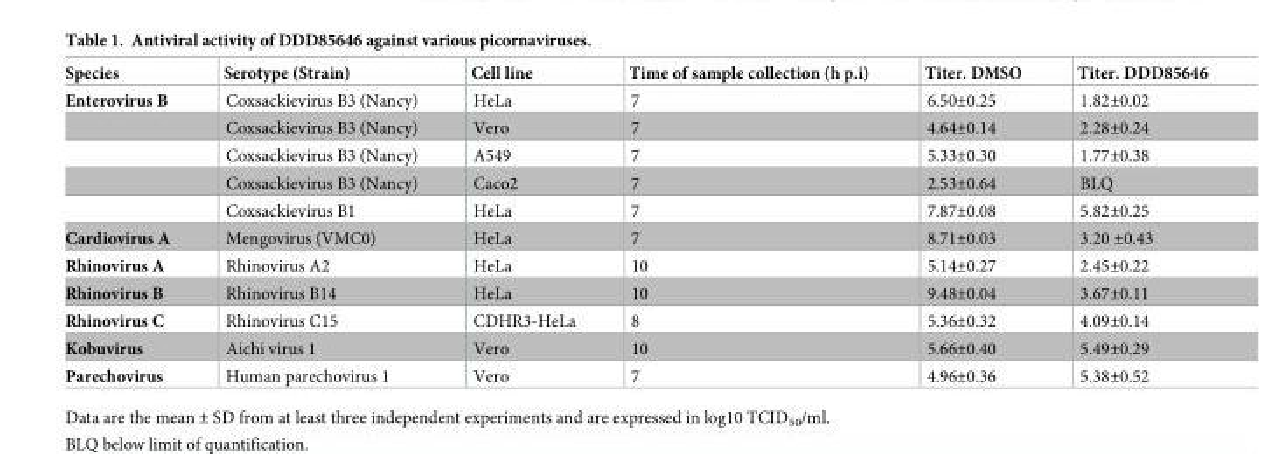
<table><thead><tr><td>Species</td><td>Serotype (Strain)</td><td>Cell line</td><td>Time of sample collection (h p.i)</td><td>Titer. DMSO</td><td>Titer. DDD85646</td></tr></thead><tbody><tr><td rowspan="5">Enterovirus B</td><td>Coxsackievirus B3 (Nancy)</td><td>HeLa</td><td>7</td><td>6.50±0.25</td><td>1.82±0.02</td></tr><tr><td>Coxsackievirus B3 (Nancy)</td><td>Vero</td><td>7</td><td>4.64±0.14</td><td>2.28±0.24</td></tr><tr><td>Coxsackievirus B3 (Nancy)</td><td>A549</td><td>7</td><td>5.33±0.30</td><td>1.77±0.38</td></tr><tr><td>Coxsackievirus B3 (Nancy)</td><td>Caco2</td><td>7</td><td>2.53±0.64</td><td>BLQ</td></tr><tr><td>Coxsackievirus B1</td><td>HeLa</td><td>7</td><td>7.87±0.08</td><td>5.82±0.25</td></tr><tr><td>Cardiovirus A</td><td>Mengovirus (VMC0)</td><td>HeLa</td><td>7</td><td>8.71±0.03</td><td>3.20 ±0.43</td></tr><tr><td>Rhinovirus A</td><td>Rhinovirus A2</td><td>HeLa</td><td>10</td><td>5.14±0.27</td><td>2.45±0.22</td></tr><tr><td>Rhinovirus B</td><td>Rhinovirus B14</td><td>HeLa</td><td>10</td><td>9.48±0.04</td><td>3.67±0.11</td></tr><tr><td>Rhinovirus C</td><td>Rhinovirus C15</td><td>CDHR3-HeLa</td><td>8</td><td>5.36±0.32</td><td>4.09±0.14</td></tr><tr><td>Kobuvirus</td><td>Aichi virus 1</td><td>Vero</td><td>10</td><td>5.66±0.40</td><td>5.49±0.29</td></tr><tr><td>Parechovirus</td><td>Human parechovirus 1</td><td>Vero</td><td>7</td><td>4.96±0.36</td><td>5.38±0.52</td></tr></tbody></table>